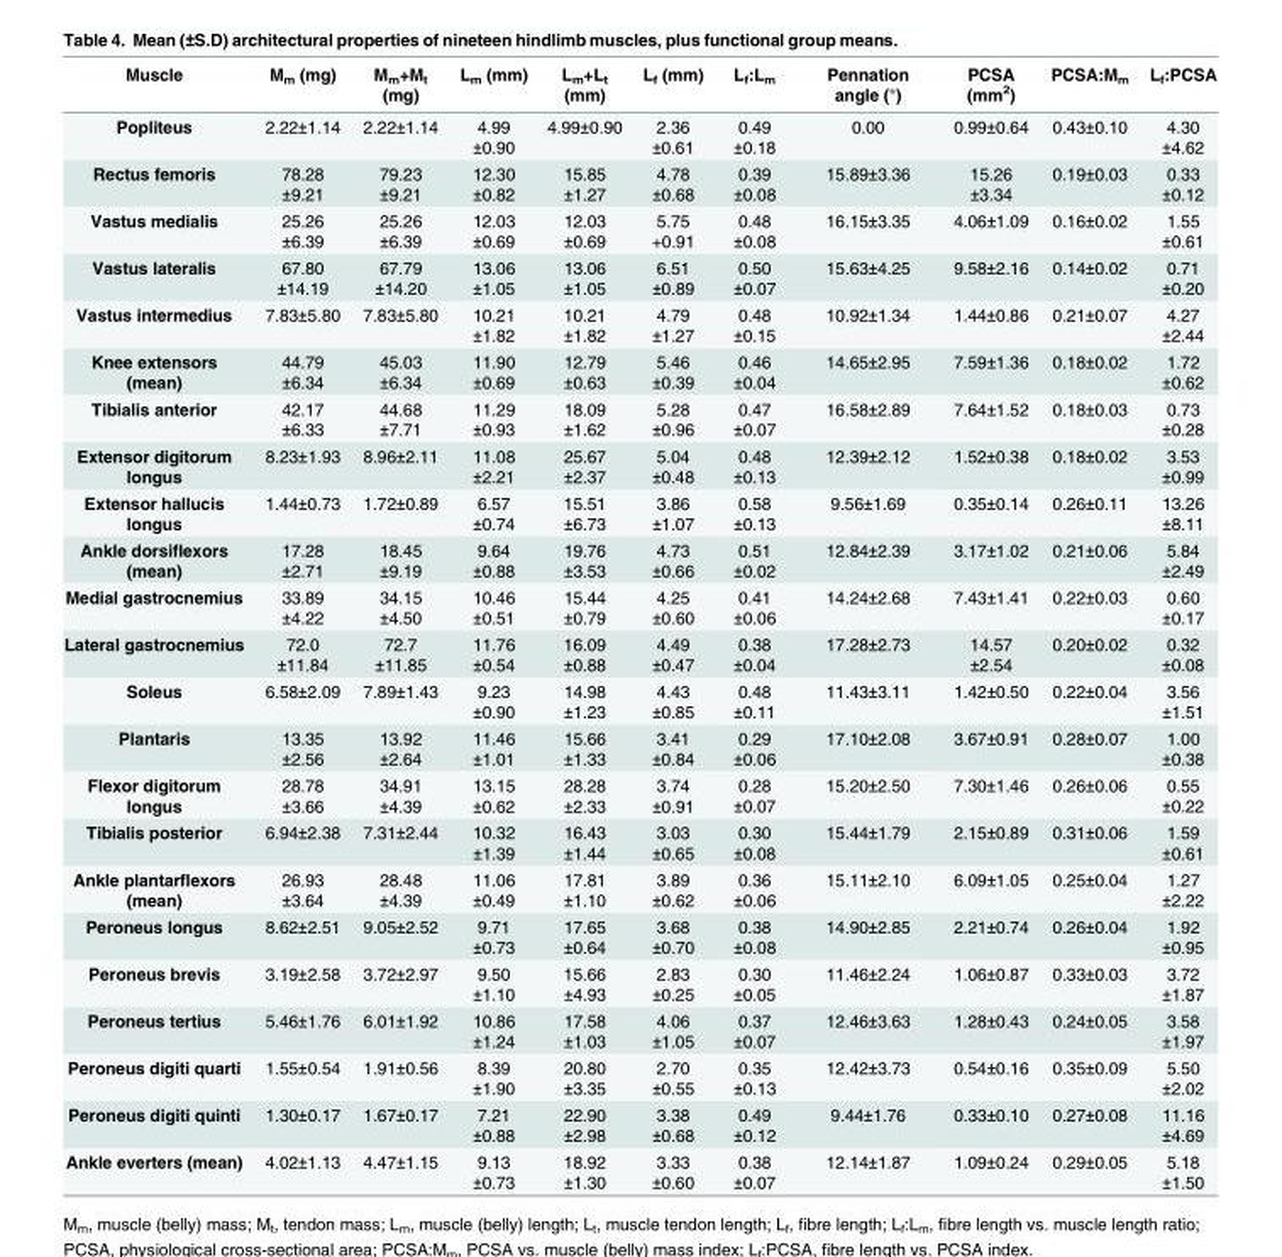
<table><thead><tr><td>Muscle</td><td>M<sub>m</sub> (mg)</td><td>M<sub>m</sub>+M<sub>t</sub> (mg)</td><td>L<sub>m</sub> (mm)</td><td>L<sub>m</sub>+L<sub>t</sub> (mm)</td><td>L<sub>f</sub> (mm)</td><td>L<sub>f</sub>:L<sub>m</sub></td><td>Pennation angle (°)</td><td>PCSA (mm<sup>2</sup>)</td><td>PCSA:M<sub>m</sub></td><td>L<sub>f</sub>:PCSA</td></tr></thead><tbody><tr><td>Popliteus</td><td>2.22±1.14</td><td>2.22±1.14</td><td>4.99 ±0.90</td><td>4.99±0.90</td><td>2.36 ±0.61</td><td>0.49 ±0.18</td><td>0.00</td><td>0.99±0.64</td><td>0.43±0.10</td><td>4.30 ±4.62</td></tr><tr><td>Rectus femoris</td><td>78.28 ±9.21</td><td>79.23 ±9.21</td><td>12.30 ±0.82</td><td>15.85 ±1.27</td><td>4.78 ±0.68</td><td>0.39 ±0.08</td><td>15.89±3.36</td><td>15.26 ±3.34</td><td>0.19±0.03</td><td>0.33 ±0.12</td></tr><tr><td>Vastus medialis</td><td>25.26 ±6.39</td><td>25.26 ±6.39</td><td>12.03 ±0.69</td><td>12.03 ±0.69</td><td>5.75 +0.91</td><td>0.48 ±0.08</td><td>16.15±3.35</td><td>4.06±1.09</td><td>0.16±0.02</td><td>1.55 ±0.61</td></tr><tr><td>Vastus lateralis</td><td>67.80 ±14.19</td><td>67.79 ±14.20</td><td>13.06 ±1.05</td><td>13.06 ±1.05</td><td>6.51 ±0.89</td><td>0.50 ±0.07</td><td>15.63±4.25</td><td>9.58±2.16</td><td>0.14±0.02</td><td>0.71 ±0.20</td></tr><tr><td>Vastus intermedius</td><td>7.83±5.80</td><td>7.83±5.80</td><td>10.21 ±1.82</td><td>10.21 ±1.82</td><td>4.79 ±1.27</td><td>0.48 ±0.15</td><td>10.92±1.34</td><td>1.44±0.86</td><td>0.21±0.07</td><td>4.27 ±2.44</td></tr><tr><td>Knee extensors (mean)</td><td>44.79 ±6.34</td><td>45.03 ±6.34</td><td>11.90 ±0.69</td><td>12.79 ±0.63</td><td>5.46 ±0.39</td><td>0.46 ±0.04</td><td>14.65±2.95</td><td>7.59±1.36</td><td>0.18±0.02</td><td>1.72 ±0.62</td></tr><tr><td>Tibialis anterior</td><td>42.17 ±6.33</td><td>44.68 ±7.71</td><td>11.29 ±0.93</td><td>18.09 ±1.62</td><td>5.28 ±0.96</td><td>0.47 ±0.07</td><td>16.58±2.89</td><td>7.64±1.52</td><td>0.18±0.03</td><td>0.73 ±0.28</td></tr><tr><td>Extensor digitorum longus</td><td>8.23±1.93</td><td>8.96±2.11</td><td>11.08 ±2.21</td><td>25.67 ±2.37</td><td>5.04 ±0.48</td><td>0.48 ±0.13</td><td>12.39±2.12</td><td>1.52±0.38</td><td>0.18±0.02</td><td>3.53 ±0.99</td></tr><tr><td>Extensor hallucis longus</td><td>1.44±0.73</td><td>1.72±0.89</td><td>6.57 ±0.74</td><td>15.51 ±6.73</td><td>3.86 ±1.07</td><td>0.58 ±0.13</td><td>9.56±1.69</td><td>0.35±0.14</td><td>0.26±0.11</td><td>13.26 ±8.11</td></tr><tr><td>Ankle dorsiflexors (mean)</td><td>17.28 ±2.71</td><td>18.45 ±9.19</td><td>9.64 ±0.88</td><td>19.76 ±3.53</td><td>4.73 ±0.66</td><td>0.51 ±0.02</td><td>12.84±2.39</td><td>3.17±1.02</td><td>0.21±0.06</td><td>5.84 ±2.49</td></tr><tr><td>Medial gastrocnemius</td><td>33.89 ±4.22</td><td>34.15 ±4.50</td><td>10.46 ±0.51</td><td>15.44 ±0.79</td><td>4.25 ±0.60</td><td>0.41 ±0.06</td><td>14.24±2.68</td><td>7.43±1.41</td><td>0.22±0.03</td><td>0.60 ±0.17</td></tr><tr><td>Lateral gastrocnemius</td><td>72.0 ±11.84</td><td>72.7 ±11.85</td><td>11.76 ±0.54</td><td>16.09 ±0.88</td><td>4.49 ±0.47</td><td>0.38 ±0.04</td><td>17.28±2.73</td><td>14.57 ±2.54</td><td>0.20±0.02</td><td>0.32 ±0.08</td></tr><tr><td>Soleus</td><td>6.58±2.09</td><td>7.89±1.43</td><td>9.23 ±0.90</td><td>14.98 ±1.23</td><td>4.43 ±0.85</td><td>0.48 ±0.11</td><td>11.43±3.11</td><td>1.42±0.50</td><td>0.22±0.04</td><td>3.56 ±1.51</td></tr><tr><td>Plantaris</td><td>13.35 ±2.56</td><td>13.92 ±2.64</td><td>11.46 ±1.01</td><td>15.66 ±1.33</td><td>3.41 ±0.84</td><td>0.29 ±0.06</td><td>17.10±2.08</td><td>3.67±0.91</td><td>0.28±0.07</td><td>1.00 ±0.38</td></tr><tr><td>Flexor digitorum longus</td><td>28.78 ±3.66</td><td>34.91 ±4.39</td><td>13.15 ±0.62</td><td>28.28 ±2.33</td><td>3.74 ±0.91</td><td>0.28 ±0.07</td><td>15.20±2.50</td><td>7.30±1.46</td><td>0.26±0.06</td><td>0.55 ±0.22</td></tr><tr><td>Tibialis posterior</td><td>6.94±2.38</td><td>7.31±2.44</td><td>10.32 ±1.39</td><td>16.43 ±1.44</td><td>3.03 ±0.65</td><td>0.30 ±0.08</td><td>15.44±1.79</td><td>2.15±0.89</td><td>0.31±0.06</td><td>1.59 ±0.61</td></tr><tr><td>Ankle plantarflexors (mean)</td><td>26.93 ±3.64</td><td>28.48 ±4.39</td><td>11.06 ±0.49</td><td>17.81 ±1.10</td><td>3.89 ±0.62</td><td>0.36 ±0.06</td><td>15.11±2.10</td><td>6.09±1.05</td><td>0.25±0.04</td><td>1.27 ±2.22</td></tr><tr><td>Peroneus longus</td><td>8.62±2.51</td><td>9.05±2.52</td><td>9.71 ±0.73</td><td>17.65 ±0.64</td><td>3.68 ±0.70</td><td>0.38 ±0.08</td><td>14.90±2.85</td><td>2.21±0.74</td><td>0.26±0.04</td><td>1.92 ±0.95</td></tr><tr><td>Peroneus brevis</td><td>3.19±2.58</td><td>3.72±2.97</td><td>9.50 ±1.10</td><td>15.66 ±4.93</td><td>2.83 ±0.25</td><td>0.30 ±0.05</td><td>11.46±2.24</td><td>1.06±0.87</td><td>0.33±0.03</td><td>3.72 ±1.87</td></tr><tr><td>Peroneus tertius</td><td>5.46±1.76</td><td>6.01±1.92</td><td>10.86 ±1.24</td><td>17.58 ±1.03</td><td>4.06 ±1.05</td><td>0.37 ±0.07</td><td>12.46±3.63</td><td>1.28±0.43</td><td>0.24±0.05</td><td>3.58 ±1.97</td></tr><tr><td>Peroneus digiti quarti</td><td>1.55±0.54</td><td>1.91±0.56</td><td>8.39 ±1.90</td><td>20.80 ±3.35</td><td>2.70 ±0.55</td><td>0.35 ±0.13</td><td>12.42±3.73</td><td>0.54±0.16</td><td>0.35±0.09</td><td>5.50 ±2.02</td></tr><tr><td>Peroneus digiti quinti</td><td>1.30±0.17</td><td>1.67±0.17</td><td>7.21 ±0.88</td><td>22.90 ±2.98</td><td>3.38 ±0.68</td><td>0.49 ±0.12</td><td>9.44±1.76</td><td>0.33±0.10</td><td>0.27±0.08</td><td>11.16 ±4.69</td></tr><tr><td>Ankle everters (mean)</td><td>4.02±1.13</td><td>4.47±1.15</td><td>9.13 ±0.73</td><td>18.92 ±1.30</td><td>3.33 ±0.60</td><td>0.38 ±0.07</td><td>12.14±1.87</td><td>1.09±0.24</td><td>0.29±0.05</td><td>5.18 ±1.50</td></tr></tbody></table>